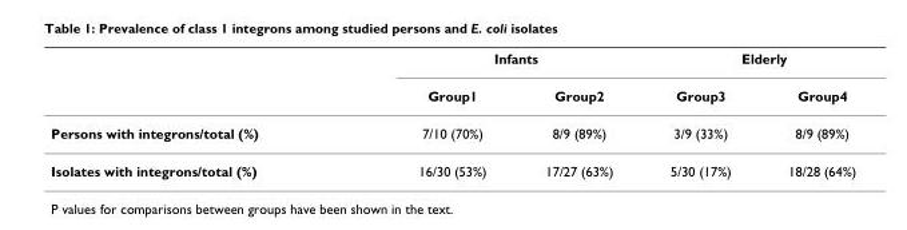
<table><thead><tr><td rowspan="2"></td><td colspan="2">Infants</td><td colspan="2">Elderly</td></tr><tr><td>Group1</td><td>Group2</td><td>Group3</td><td>Group4</td></tr></thead><tbody><tr><td>Persons with integrons/total (%)</td><td>7/10 (70%)</td><td>8/9 (89%)</td><td>3/9 (33%)</td><td>8/9 (89%)</td></tr><tr><td>Isolates with integrons/total (%)</td><td>16/30 (53%)</td><td>17/27 (63%)</td><td>5/30 (17%)</td><td>18/28 (64%)</td></tr></tbody></table>